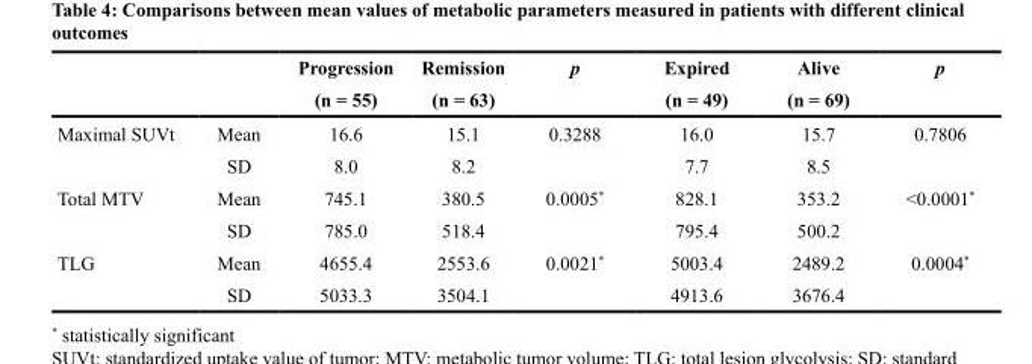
<table><thead><tr><td rowspan="2"></td><td rowspan="2"></td><td rowspan="2">Progression (n = 55)</td><td rowspan="2">Remission (n = 63)</td><td rowspan="2">p</td><td rowspan="2">Expired (n = 49)</td><td rowspan="2">Alive (n = 69)</td><td rowspan="2">p</td></tr><tr></tr></thead><tbody><tr><td rowspan="2">Maximal SUVt</td><td>Mean</td><td>16.6</td><td>15.1</td><td>0.3288</td><td>16.0</td><td>15.7</td><td>0.7806</td></tr><tr><td>SD</td><td>8.0</td><td>8.2</td><td></td><td>7.7</td><td>8.5</td><td></td></tr><tr><td rowspan="2">Total MTV</td><td>Mean</td><td>745.1</td><td>380.5</td><td>0.0005*</td><td>828.1</td><td>353.2</td><td>&lt;0.0001*</td></tr><tr><td>SD</td><td>785.0</td><td>518.4</td><td></td><td>795.4</td><td>500.2</td><td></td></tr><tr><td rowspan="2">TLG</td><td>Mean</td><td>4655.4</td><td>2553.6</td><td>0.0021*</td><td>5003.4</td><td>2489.2</td><td>0.0004*</td></tr><tr><td>SD</td><td>5033.3</td><td>3504.1</td><td></td><td>4913.6</td><td>3676.4</td><td></td></tr></tbody></table>